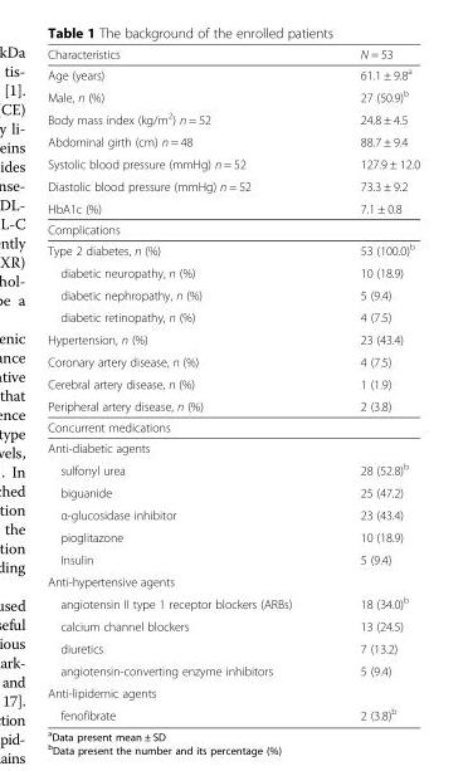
<table><tbody><tr><td>Characteristics</td><td>N = 53</td></tr><tr><td>Age (years)</td><td>61.1 ± 9.8<sup>a</sup></td></tr><tr><td>Male, n (%)</td><td>27 (50.9)<sup>b</sup></td></tr><tr><td>Body mass index (kg/m<sup>2</sup>) n = 52</td><td>24.8 ± 4.5</td></tr><tr><td>Abdominal girth (cm) n = 48</td><td>88.7 ± 9.4</td></tr><tr><td>Systolic blood pressure (mmHg) n = 52</td><td>127.9 ± 12.0</td></tr><tr><td>Diastolic blood pressure (mmHg) n = 52</td><td>73.3 ± 9.2</td></tr><tr><td>HbA1c (%)</td><td>7.1 ± 0.8</td></tr><tr><td colspan="2">Complications</td></tr><tr><td>Type 2 diabetes, n (%)</td><td>53 (100.0)<sup>b</sup></td></tr><tr><td>diabetic neuropathy, n (%)</td><td>10 (18.9)</td></tr><tr><td>diabetic nephropathy, n (%)</td><td>5 (9.4)</td></tr><tr><td>diabetic retinopathy, n (%)</td><td>4 (7.5)</td></tr><tr><td>Hypertension, n (%)</td><td>23 (43.4)</td></tr><tr><td>Coronary artery disease, n (%)</td><td>4 (7.5)</td></tr><tr><td>Cerebral artery disease, n (%)</td><td>1 (1.9)</td></tr><tr><td>Peripheral artery disease, n (%)</td><td>2 (3.8)</td></tr><tr><td colspan="2">Concurrent medications</td></tr><tr><td colspan="2">Anti-diabetic agents</td></tr><tr><td>sulfonyl urea</td><td>28 (52.8)<sup>b</sup></td></tr><tr><td>biguanide</td><td>25 (47.2)</td></tr><tr><td>α-glucosidase inhibitor</td><td>23 (43.4)</td></tr><tr><td>pioglitazone</td><td>10 (18.9)</td></tr><tr><td>Insulin</td><td>5 (9.4)</td></tr><tr><td colspan="2">Anti-hypertensive agents</td></tr><tr><td>angiotensin II type 1 receptor blockers (ARBs)</td><td>18 (34.0)<sup>b</sup></td></tr><tr><td>calcium channel blockers</td><td>13 (24.5)</td></tr><tr><td>diuretics</td><td>7 (13.2)</td></tr><tr><td>angiotensin-converting enzyme inhibitors</td><td>5 (9.4)</td></tr><tr><td colspan="2">Anti-lipidemic agents</td></tr><tr><td>fenofibrate</td><td>2 (3.8)<sup>b</sup></td></tr></tbody></table>